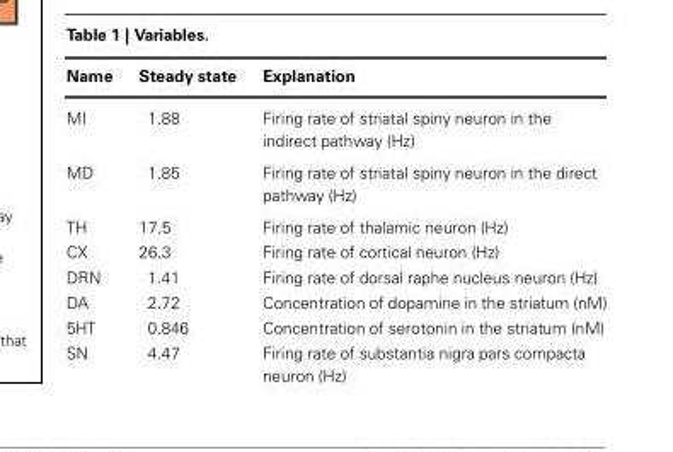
<table><thead><tr><td>Name</td><td>Steady state</td><td>Explanation</td></tr></thead><tbody><tr><td>MI</td><td>1.88</td><td>Firing rate of striatal spiny neuron in the indirect pathway (Hz)</td></tr><tr><td>MD</td><td>1.85</td><td>Firing rate of striatal spiny neuron in the direct pathway (Hz)</td></tr><tr><td>TH</td><td>17.5</td><td>Firing rate of thalamic neuron (Hz)</td></tr><tr><td>CX</td><td>26.3</td><td>Firing rate of cortical neuron (Hz)</td></tr><tr><td>DRN</td><td>1.41</td><td>Firing rate of dorsal raphe nucleus neuron (Hz)</td></tr><tr><td>DA</td><td>2.72</td><td>Concentration of dopamine in the striatum (nM)</td></tr><tr><td>5HT</td><td>0.846</td><td>Concentration of serotonin in the striatum (nM)</td></tr><tr><td>SN</td><td>4.47</td><td>Firing rate of substantia nigra pars compacta neuron (Hz)</td></tr></tbody></table>